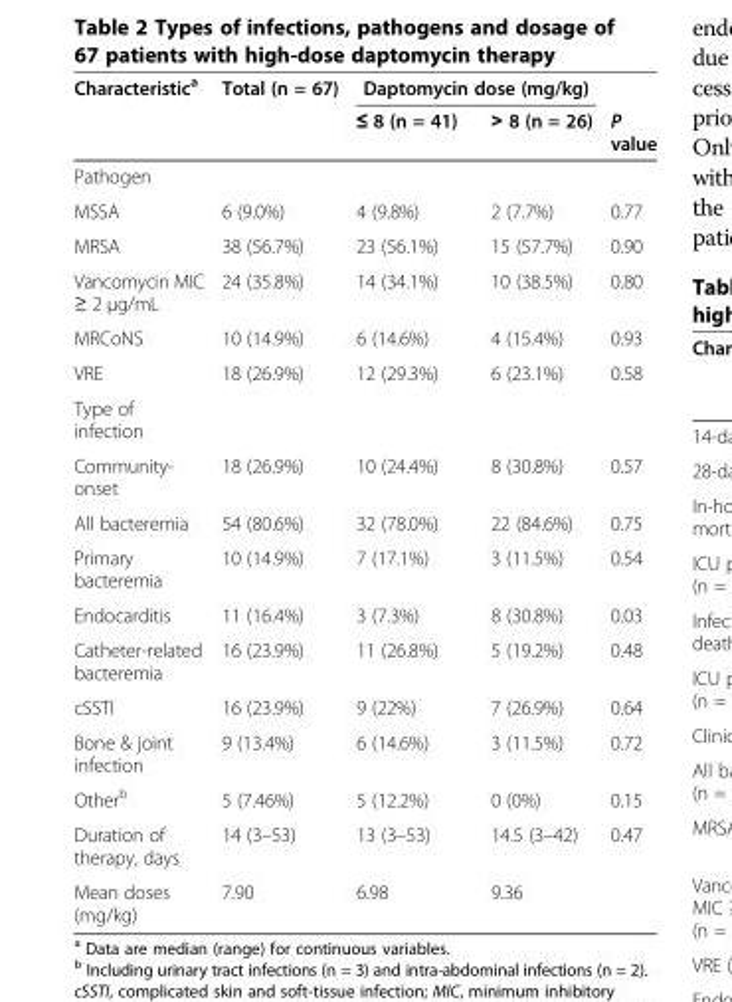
<table><thead><tr><td rowspan="2">Characteristic<sup>a</sup></td><td rowspan="2">Total (n = 67)</td><td colspan="2">Daptomycin dose (mg/kg)</td><td rowspan="2">P value</td></tr><tr><td>≤ 8 (n = 41)</td><td>&gt; 8 (n = 26)</td></tr></thead><tbody><tr><td colspan="5">Pathogen</td></tr><tr><td>MSSA</td><td>6 (9.0%)</td><td>4 (9.8%)</td><td>2 (7.7%)</td><td>0.77</td></tr><tr><td>MRSA</td><td>38 (56.7%)</td><td>23 (56.1%)</td><td>15 (57.7%)</td><td>0.90</td></tr><tr><td>Vancomycin MIC ≥ 2 μg/mL</td><td>24 (35.8%)</td><td>14 (34.1%)</td><td>10 (38.5%)</td><td>0.80</td></tr><tr><td>MRCoNS</td><td>10 (14.9%)</td><td>6 (14.6%)</td><td>4 (15.4%)</td><td>0.93</td></tr><tr><td>VRE</td><td>18 (26.9%)</td><td>12 (29.3%)</td><td>6 (23.1%)</td><td>0.58</td></tr><tr><td colspan="5">Type of infection</td></tr><tr><td>Community- onset</td><td>18 (26.9%)</td><td>10 (24.4%)</td><td>8 (30.8%)</td><td>0.57</td></tr><tr><td>All bacteremia</td><td>54 (80.6%)</td><td>32 (78.0%)</td><td>22 (84.6%)</td><td>0.75</td></tr><tr><td>Primary bacteremia</td><td>10 (14.9%)</td><td>7 (17.1%)</td><td>3 (11.5%)</td><td>0.54</td></tr><tr><td>Endocarditis</td><td>11 (16.4%)</td><td>3 (7.3%)</td><td>8 (30.8%)</td><td>0.03</td></tr><tr><td>Catheter-related bacteremia</td><td>16 (23.9%)</td><td>11 (26.8%)</td><td>5 (19.2%)</td><td>0.48</td></tr><tr><td>cSSTI</td><td>16 (23.9%)</td><td>9 (22%)</td><td>7 (26.9%)</td><td>0.64</td></tr><tr><td>Bone &amp; joint infection</td><td>9 (13.4%)</td><td>6 (14.6%)</td><td>3 (11.5%)</td><td>0.72</td></tr><tr><td>Other<sup>b</sup></td><td>5 (7.46%)</td><td>5 (12.2%)</td><td>0 (0%)</td><td>0.15</td></tr><tr><td>Duration of therapy, days</td><td>14 (3–53)</td><td>13 (3–53)</td><td>14.5 (3–42)</td><td>0.47</td></tr><tr><td>Mean doses (mg/kg)</td><td>7.90</td><td>6.98</td><td>9.36</td><td></td></tr></tbody></table>